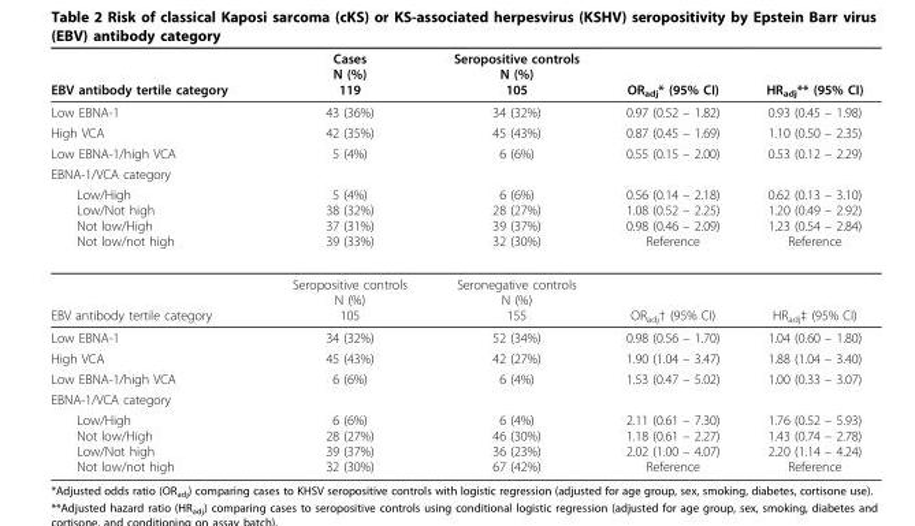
<table><thead><tr><td>EBV antibody tertile category</td><td>Cases N (%) 119</td><td>Seropositive controls N (%) 105</td><td>OR<sub>adj</sub>* (95% CI)</td><td>HR<sub>adj</sub>** (95% CI)</td></tr></thead><tbody><tr><td>Low EBNA-1</td><td>43 (36%)</td><td>34 (32%)</td><td>0.97 (0.52 – 1.82)</td><td>0.93 (0.45 – 1.98)</td></tr><tr><td>High VCA</td><td>42 (35%)</td><td>45 (43%)</td><td>0.87 (0.45 – 1.69)</td><td>1.10 (0.50 – 2.35)</td></tr><tr><td>Low EBNA-1/high VCA</td><td>5 (4%)</td><td>6 (6%)</td><td>0.55 (0.15 – 2.00)</td><td>0.53 (0.12 – 2.29)</td></tr><tr><td colspan="5">EBNA-1/VCA category</td></tr><tr><td>Low/High Low/Not high Not low/High Not low/not high</td><td>5 (4%) 38 (32%) 37 (31%) 39 (33%)</td><td>6 (6%) 28 (27%) 39 (37%) 32 (30%)</td><td>0.56 (0.14 – 2.18) 1.08 (0.52 – 2.25) 0.98 (0.46 – 2.09) Reference</td><td>0.62 (0.13 – 3.10) 1.20 (0.49 – 2.92) 1.23 (0.54 – 2.84) Reference</td></tr><tr><td>EBV antibody tertile category</td><td>Seropositive controls N (%) 105</td><td>Seronegative controls N (%) 155</td><td>OR<sub>adj</sub>† (95% CI)</td><td>HR<sub>adj</sub>‡ (95% CI)</td></tr><tr><td>Low EBNA-1</td><td>34 (32%)</td><td>52 (34%)</td><td>0.98 (0.56 – 1.70)</td><td>1.04 (0.60 – 1.80)</td></tr><tr><td>High VCA</td><td>45 (43%)</td><td>42 (27%)</td><td>1.90 (1.04 – 3.47)</td><td>1.88 (1.04 – 3.40)</td></tr><tr><td>Low EBNA-1/high VCA</td><td>6 (6%)</td><td>6 (4%)</td><td>1.53 (0.47 – 5.02)</td><td>1.00 (0.33 – 3.07)</td></tr><tr><td colspan="5">EBNA-1/VCA category</td></tr><tr><td>Low/High Not low/High Low/Not high Not low/not high</td><td>6 (6%) 28 (27%) 39 (37%) 32 (30%)</td><td>6 (4%) 46 (30%) 36 (23%) 67 (42%)</td><td>2.11 (0.61 – 7.30) 1.18 (0.61 – 2.27) 2.02 (1.00 – 4.07) Reference</td><td>1.76 (0.52 – 5.93) 1.43 (0.74 – 2.78) 2.20 (1.14 – 4.24) Reference</td></tr></tbody></table>